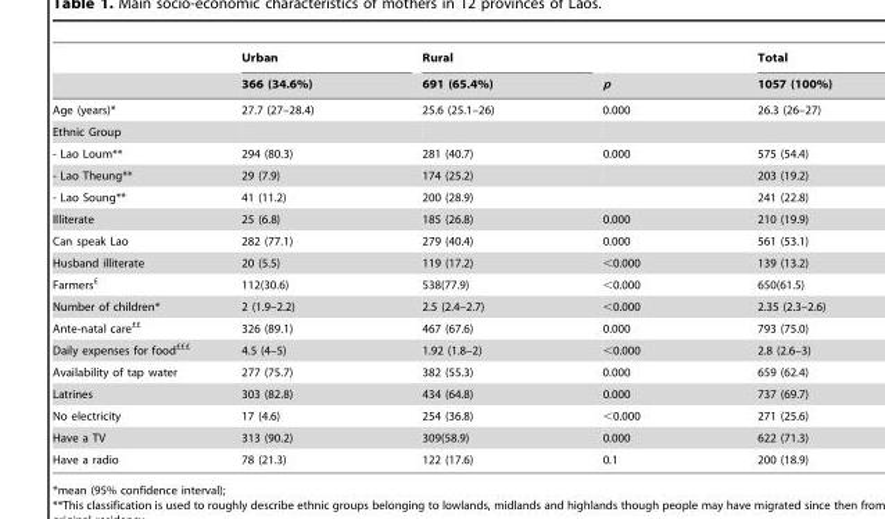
<table><thead><tr><td rowspan="2"></td><td rowspan="2">Urban 366 (34.6%)</td><td rowspan="2">Rural 691 (65.4%)</td><td rowspan="2">p</td><td rowspan="2">Total 1057 (100%)</td></tr><tr></tr></thead><tbody><tr><td>Age (years)*</td><td>27.7 (27–28.4)</td><td>25.6 (25.1–26)</td><td>0.000</td><td>26.3 (26–27)</td></tr><tr><td colspan="5">Ethnic Group</td></tr><tr><td>- Lao Loum**</td><td>294 (80.3)</td><td>281 (40.7)</td><td>0.000</td><td>575 (54.4)</td></tr><tr><td>- Lao Theung**</td><td>29 (7.9)</td><td>174 (25.2)</td><td></td><td>203 (19.2)</td></tr><tr><td>- Lao Soung**</td><td>41 (11.2)</td><td>200 (28.9)</td><td></td><td>241 (22.8)</td></tr><tr><td>Illiterate</td><td>25 (6.8)</td><td>185 (26.8)</td><td>0.000</td><td>210 (19.9)</td></tr><tr><td>Can speak Lao</td><td>282 (77.1)</td><td>279 (40.4)</td><td>0.000</td><td>561 (53.1)</td></tr><tr><td>Husband illiterate</td><td>20 (5.5)</td><td>119 (17.2)</td><td>&lt;0.000</td><td>139 (13.2)</td></tr><tr><td>Farmers£</td><td>112(30.6)</td><td>538(77.9)</td><td>&lt;0.000</td><td>650(61.5)</td></tr><tr><td>Number of children*</td><td>2 (1.9–2.2)</td><td>2.5 (2.4–2.7)</td><td>&lt;0.000</td><td>2.35 (2.3–2.6)</td></tr><tr><td>Ante-natal care££</td><td>326 (89.1)</td><td>467 (67.6)</td><td>0.000</td><td>793 (75.0)</td></tr><tr><td>Daily expenses for food£££</td><td>4.5 (4–5)</td><td>1.92 (1.8–2)</td><td>&lt;0.000</td><td>2.8 (2.6–3)</td></tr><tr><td>Availability of tap water</td><td>277 (75.7)</td><td>382 (55.3)</td><td>0.000</td><td>659 (62.4)</td></tr><tr><td>Latrines</td><td>303 (82.8)</td><td>434 (64.8)</td><td>0.000</td><td>737 (69.7)</td></tr><tr><td>No electricity</td><td>17 (4.6)</td><td>254 (36.8)</td><td>&lt;0.000</td><td>271 (25.6)</td></tr><tr><td>Have a TV</td><td>313 (90.2)</td><td>309(58.9)</td><td>0.000</td><td>622 (71.3)</td></tr><tr><td>Have a radio</td><td>78 (21.3)</td><td>122 (17.6)</td><td>0.1</td><td>200 (18.9)</td></tr></tbody></table>